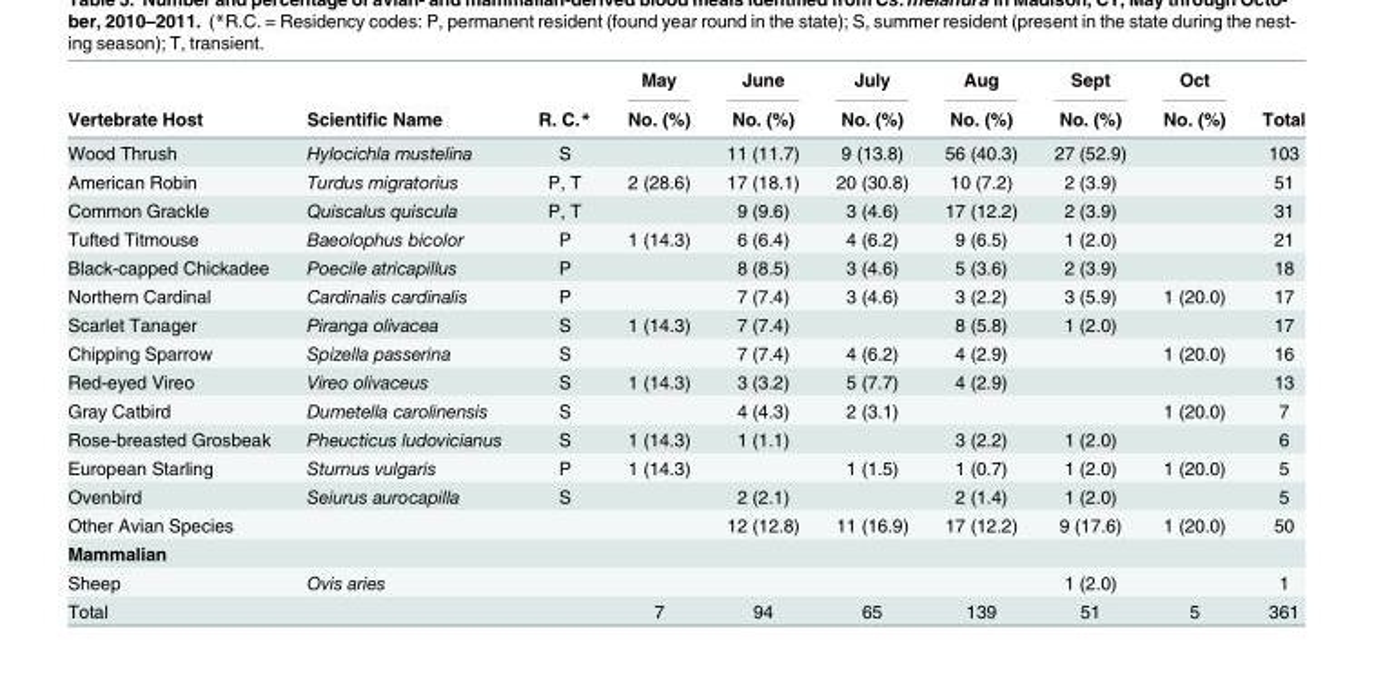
<table><thead><tr><td rowspan="2">Vertebrate Host</td><td rowspan="2">Scientific Name</td><td rowspan="2">R. C.*</td><td rowspan="2">May No. (%)</td><td rowspan="2">June No. (%)</td><td rowspan="2">July No. (%)</td><td rowspan="2">Aug No. (%)</td><td rowspan="2">Sept No. (%)</td><td rowspan="2">Oct No. (%)</td><td rowspan="2">Total</td></tr><tr></tr></thead><tbody><tr><td>Wood Thrush</td><td>Hylocichla mustelina</td><td>S</td><td></td><td>11 (11.7)</td><td>9 (13.8)</td><td>56 (40.3)</td><td>27 (52.9)</td><td></td><td>103</td></tr><tr><td>American Robin</td><td>Turdus migratorius</td><td>P, T</td><td>2 (28.6)</td><td>17 (18.1)</td><td>20 (30.8)</td><td>10 (7.2)</td><td>2 (3.9)</td><td></td><td>51</td></tr><tr><td>Common Grackle</td><td>Quiscalus quiscula</td><td>P, T</td><td></td><td>9 (9.6)</td><td>3 (4.6)</td><td>17 (12.2)</td><td>2 (3.9)</td><td></td><td>31</td></tr><tr><td>Tufted Titmouse</td><td>Baeolophus bicolor</td><td>P</td><td>1 (14.3)</td><td>6 (6.4)</td><td>4 (6.2)</td><td>9 (6.5)</td><td>1 (2.0)</td><td></td><td>21</td></tr><tr><td>Black-capped Chickadee</td><td>Poecile atricapillus</td><td>P</td><td></td><td>8 (8.5)</td><td>3 (4.6)</td><td>5 (3.6)</td><td>2 (3.9)</td><td></td><td>18</td></tr><tr><td>Northern Cardinal</td><td>Cardinalis cardinalis</td><td>P</td><td></td><td>7 (7.4)</td><td>3 (4.6)</td><td>3 (2.2)</td><td>3 (5.9)</td><td>1 (20.0)</td><td>17</td></tr><tr><td>Scarlet Tanager</td><td>Piranga olivacea</td><td>S</td><td>1 (14.3)</td><td>7 (7.4)</td><td></td><td>8 (5.8)</td><td>1 (2.0)</td><td></td><td>17</td></tr><tr><td>Chipping Sparrow</td><td>Spizella passerina</td><td>S</td><td></td><td>7 (7.4)</td><td>4 (6.2)</td><td>4 (2.9)</td><td></td><td>1 (20.0)</td><td>16</td></tr><tr><td>Red-eyed Vireo</td><td>Vireo olivaceus</td><td>S</td><td>1 (14.3)</td><td>3 (3.2)</td><td>5 (7.7)</td><td>4 (2.9)</td><td></td><td></td><td>13</td></tr><tr><td>Gray Catbird</td><td>Dumetella carolinensis</td><td>S</td><td></td><td>4 (4.3)</td><td>2 (3.1)</td><td></td><td></td><td>1 (20.0)</td><td>7</td></tr><tr><td>Rose-breasted Grosbeak</td><td>Pheucticus ludovicianus</td><td>S</td><td>1 (14.3)</td><td>1 (1.1)</td><td></td><td>3 (2.2)</td><td>1 (2.0)</td><td></td><td>6</td></tr><tr><td>European Starling</td><td>Sturnus vulgaris</td><td>P</td><td>1 (14.3)</td><td></td><td>1 (1.5)</td><td>1 (0.7)</td><td>1 (2.0)</td><td>1 (20.0)</td><td>5</td></tr><tr><td>Ovenbird</td><td>Seiurus aurocapilla</td><td>S</td><td></td><td>2 (2.1)</td><td></td><td>2 (1.4)</td><td>1 (2.0)</td><td></td><td>5</td></tr><tr><td>Other Avian Species</td><td></td><td></td><td></td><td>12 (12.8)</td><td>11 (16.9)</td><td>17 (12.2)</td><td>9 (17.6)</td><td>1 (20.0)</td><td>50</td></tr><tr><td colspan="10">Mammalian</td></tr><tr><td>Sheep</td><td>Ovis aries</td><td></td><td></td><td></td><td></td><td></td><td>1 (2.0)</td><td></td><td>1</td></tr><tr><td>Total</td><td></td><td></td><td>7</td><td>94</td><td>65</td><td>139</td><td>51</td><td>5</td><td>361</td></tr></tbody></table>